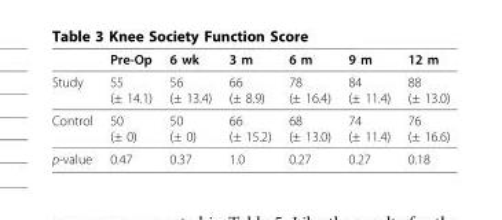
<table><thead><tr><td></td><td>Pre-Op</td><td>6 wk</td><td>3 m</td><td>6 m</td><td>9 m</td><td>12 m</td></tr></thead><tbody><tr><td>Study</td><td>55 (± 14.1)</td><td>56 (± 13.4)</td><td>66 (± 8.9)</td><td>78 (± 16.4)</td><td>84 (± 11.4)</td><td>88 (± 13.0)</td></tr><tr><td>Control</td><td>50 (± 0)</td><td>50 (± 0)</td><td>66 (± 15.2)</td><td>68 (± 13.0)</td><td>74 (± 11.4)</td><td>76 (± 16.6)</td></tr><tr><td>p-value</td><td>0.47</td><td>0.37</td><td>1.0</td><td>0.27</td><td>0.27</td><td>0.18</td></tr></tbody></table>